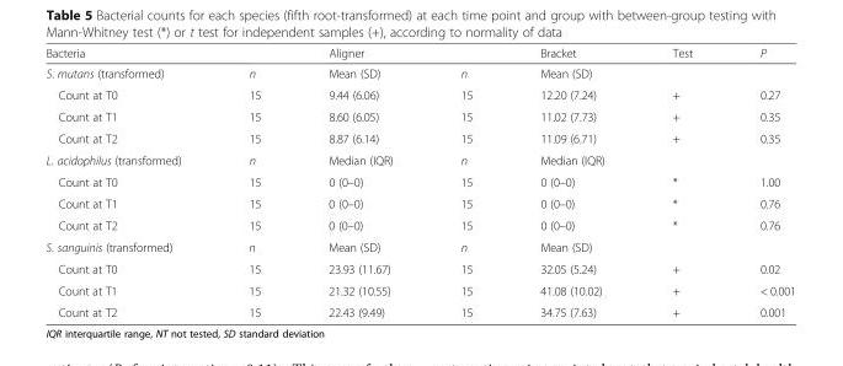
<table><thead><tr><td>Bacteria</td><td></td><td>Aligner</td><td></td><td>Bracket</td><td>Test</td><td>P</td></tr></thead><tbody><tr><td>S. mutans (transformed)</td><td>n</td><td>Mean (SD)</td><td>n</td><td>Mean (SD)</td><td></td><td></td></tr><tr><td>Count at T0</td><td>15</td><td>9.44 (6.06)</td><td>15</td><td>12.20 (7.24)</td><td>+</td><td>0.27</td></tr><tr><td>Count at T1</td><td>15</td><td>8.60 (6.05)</td><td>15</td><td>11.02 (7.73)</td><td>+</td><td>0.35</td></tr><tr><td>Count at T2</td><td>15</td><td>8.87 (6.14)</td><td>15</td><td>11.09 (6.71)</td><td>+</td><td>0.35</td></tr><tr><td>L. acidophilus (transformed)</td><td>n</td><td>Median (IQR)</td><td>n</td><td>Median (IQR)</td><td></td><td></td></tr><tr><td>Count at T0</td><td>15</td><td>0 (0–0)</td><td>15</td><td>0 (0–0)</td><td>*</td><td>1.00</td></tr><tr><td>Count at T1</td><td>15</td><td>0 (0–0)</td><td>15</td><td>0 (0–0)</td><td>*</td><td>0.76</td></tr><tr><td>Count at T2</td><td>15</td><td>0 (0–0)</td><td>15</td><td>0 (0–0)</td><td>*</td><td>0.76</td></tr><tr><td>S. sanguinis (transformed)</td><td>n</td><td>Mean (SD)</td><td>n</td><td>Mean (SD)</td><td></td><td></td></tr><tr><td>Count at T0</td><td>15</td><td>23.93 (11.67)</td><td>15</td><td>32.05 (5.24)</td><td>+</td><td>0.02</td></tr><tr><td>Count at T1</td><td>15</td><td>21.32 (10.55)</td><td>15</td><td>41.08 (10.02)</td><td>+</td><td>&lt; 0.001</td></tr><tr><td>Count at T2</td><td>15</td><td>22.43 (9.49)</td><td>15</td><td>34.75 (7.63)</td><td>+</td><td>0.001</td></tr></tbody></table>